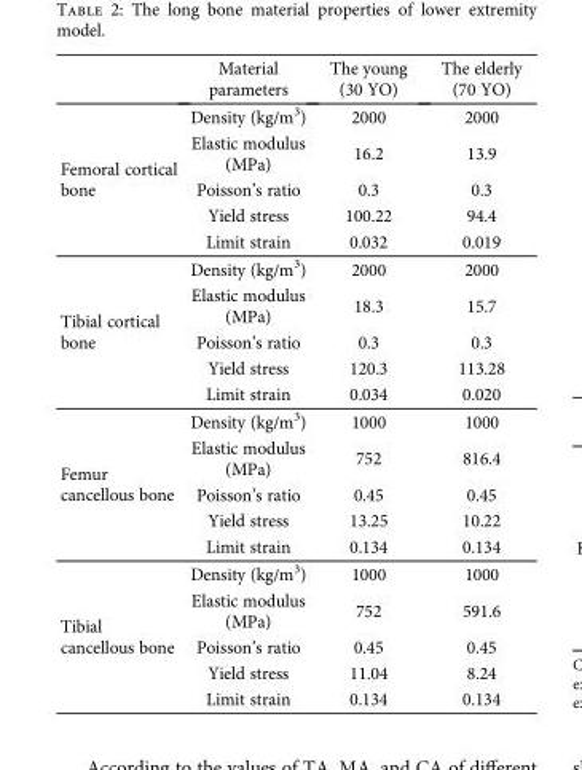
<table><thead><tr><td></td><td>Material parameters</td><td>The young (30 YO)</td><td>The elderly (70 YO)</td></tr></thead><tbody><tr><td rowspan="5">Femoral cortical bone</td><td>Density (kg/m<sup>3</sup>)</td><td>2000</td><td>2000</td></tr><tr><td>Elastic modulus (MPa)</td><td>16.2</td><td>13.9</td></tr><tr><td>Poisson’s ratio</td><td>0.3</td><td>0.3</td></tr><tr><td>Yield stress</td><td>100.22</td><td>94.4</td></tr><tr><td>Limit strain</td><td>0.032</td><td>0.019</td></tr><tr><td rowspan="5">Tibial cortical bone</td><td>Density (kg/m<sup>3</sup>)</td><td>2000</td><td>2000</td></tr><tr><td>Elastic modulus (MPa)</td><td>18.3</td><td>15.7</td></tr><tr><td>Poisson’s ratio</td><td>0.3</td><td>0.3</td></tr><tr><td>Yield stress</td><td>120.3</td><td>113.28</td></tr><tr><td>Limit strain</td><td>0.034</td><td>0.020</td></tr><tr><td rowspan="5">Femur cancellous bone</td><td>Density (kg/m<sup>3</sup>)</td><td>1000</td><td>1000</td></tr><tr><td>Elastic modulus (MPa)</td><td>752</td><td>816.4</td></tr><tr><td>Poisson’s ratio</td><td>0.45</td><td>0.45</td></tr><tr><td>Yield stress</td><td>13.25</td><td>10.22</td></tr><tr><td>Limit strain</td><td>0.134</td><td>0.134</td></tr><tr><td rowspan="5">Tibial cancellous bone</td><td>Density (kg/m<sup>3</sup>)</td><td>1000</td><td>1000</td></tr><tr><td>Elastic modulus (MPa)</td><td>752</td><td>591.6</td></tr><tr><td>Poisson’s ratio</td><td>0.45</td><td>0.45</td></tr><tr><td>Yield stress</td><td>11.04</td><td>8.24</td></tr><tr><td>Limit strain</td><td>0.134</td><td>0.134</td></tr></tbody></table>